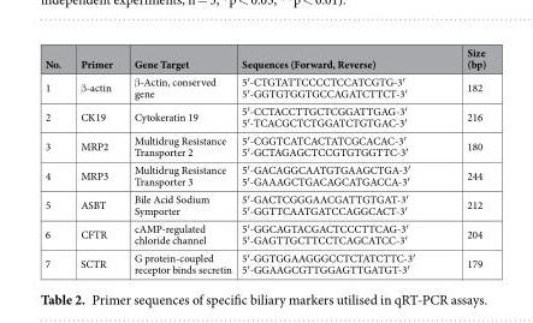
<table><thead><tr><td>No.</td><td>Primer</td><td>Gene Target</td><td>Sequences (Forward, Reverse)</td><td>Size (bp)</td></tr></thead><tbody><tr><td>1</td><td>β-actin</td><td>β-Actin, conserved gene</td><td>5′-CTGTATTCCCCTCCATCGTG-3′ 5′-GGTGTGGTGCCAGATCTTCT-3′</td><td>182</td></tr><tr><td>2</td><td>CK19</td><td>Cytokeratin 19</td><td>5′-CCTACCTTGCTCGGATTGAG-3′ 5′-TCACGCTCTGGATCTGTGAC-3′</td><td>216</td></tr><tr><td>3</td><td>MRP2</td><td>Multidrug Resistance Transporter 2</td><td>5′-CGGTCATCACTATCGCACAC-3′ 5′-GCTAGAGCTCCGTGTGGTTC-3′</td><td>180</td></tr><tr><td>4</td><td>MRP3</td><td>Multidrug Resistance Transporter 3</td><td>5′-GACAGGCAATGTGAAGCTGA-3′ 5′-GAAAGCTGACAGCATGACCA-3′</td><td>244</td></tr><tr><td>5</td><td>ASBT</td><td>Bile Acid Sodium Symporter</td><td>5′-GACTCGGGAACGATTGTGAT-3′ 5′-GGTTCAATGATCCAGGCACT-3′</td><td>212</td></tr><tr><td>6</td><td>CFTR</td><td>cAMP-regulated chloride channel</td><td>5′-GGCAGTACGACTCCCTTCAG-3′ 5′-GAGTTGCTTCCTCAGCATCC-3′</td><td>204</td></tr><tr><td>7</td><td>SCTR</td><td>G protein-coupled receptor binds secretin</td><td>5′-GGTGGAAGGGCCTCTATCTTC-3′ 5′-GGAAGCGTTGGAGTTGATGT-3′</td><td>179</td></tr></tbody></table>